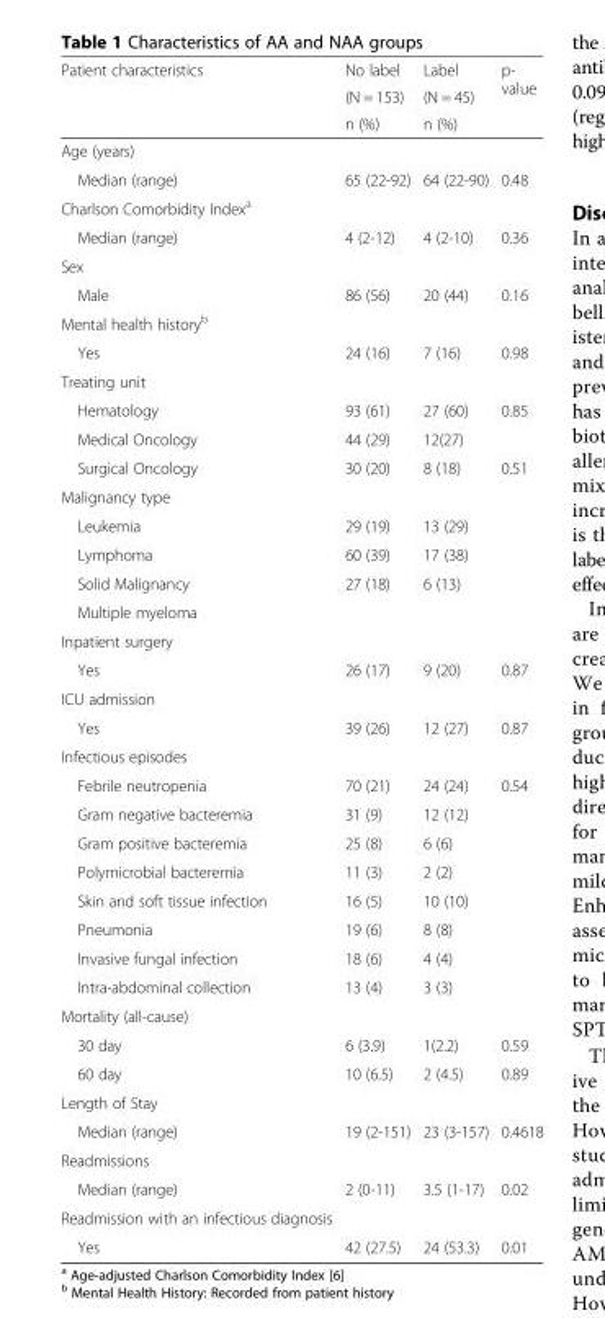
<table><thead><tr><td rowspan="3">Patient characteristics</td><td rowspan="3">No label (N = 153) n (%)</td><td rowspan="3">Label (N = 45) n (%)</td><td rowspan="3">p- value</td></tr><tr></tr><tr></tr></thead><tbody><tr><td colspan="4">Age (years)</td></tr><tr><td>Median (range)</td><td>65 (22-92)</td><td>64 (22-90)</td><td>0.48</td></tr><tr><td colspan="4">Charlson Comorbidity Index<sup>a</sup></td></tr><tr><td>Median (range)</td><td>4 (2-12)</td><td>4 (2-10)</td><td>0.36</td></tr><tr><td colspan="4">Sex</td></tr><tr><td>Male</td><td>86 (56)</td><td>20 (44)</td><td>0.16</td></tr><tr><td colspan="4">Mental health history<sup>b</sup></td></tr><tr><td>Yes</td><td>24 (16)</td><td>7 (16)</td><td>0.98</td></tr><tr><td colspan="4">Treating unit</td></tr><tr><td>Hematology</td><td>93 (61)</td><td>27 (60)</td><td>0.85</td></tr><tr><td>Medical Oncology</td><td>44 (29)</td><td>12(27)</td><td></td></tr><tr><td>Surgical Oncology</td><td>30 (20)</td><td>8 (18)</td><td>0.51</td></tr><tr><td colspan="4">Malignancy type</td></tr><tr><td>Leukemia</td><td>29 (19)</td><td>13 (29)</td><td></td></tr><tr><td>Lymphoma</td><td>60 (39)</td><td>17 (38)</td><td></td></tr><tr><td>Solid Malignancy</td><td>27 (18)</td><td>6 (13)</td><td></td></tr><tr><td colspan="4">Multiple myeloma</td></tr><tr><td colspan="4">Inpatient surgery</td></tr><tr><td>Yes</td><td>26 (17)</td><td>9 (20)</td><td>0.87</td></tr><tr><td colspan="4">ICU admission</td></tr><tr><td>Yes</td><td>39 (26)</td><td>12 (27)</td><td>0.87</td></tr><tr><td colspan="4">Infectious episodes</td></tr><tr><td>Febrile neutropenia</td><td>70 (21)</td><td>24 (24)</td><td>0.54</td></tr><tr><td>Gram negative bacteremia</td><td>31 (9)</td><td>12 (12)</td><td></td></tr><tr><td>Gram positive bacteremia</td><td>25 (8)</td><td>6 (6)</td><td></td></tr><tr><td>Polymicrobial bacteremia</td><td>11 (3)</td><td>2 (2)</td><td></td></tr><tr><td>Skin and soft tissue infection</td><td>16 (5)</td><td>10 (10)</td><td></td></tr><tr><td>Pneumonia</td><td>19 (6)</td><td>8 (8)</td><td></td></tr><tr><td>Invasive fungal infection</td><td>18 (6)</td><td>4 (4)</td><td></td></tr><tr><td>Intra-abdominal collection</td><td>13 (4)</td><td>3 (3)</td><td></td></tr><tr><td colspan="4">Mortality (all-cause)</td></tr><tr><td>30 day</td><td>6 (3.9)</td><td>1(2.2)</td><td>0.59</td></tr><tr><td>60 day</td><td>10 (6.5)</td><td>2 (4.5)</td><td>0.89</td></tr><tr><td colspan="4">Length of Stay</td></tr><tr><td>Median (range)</td><td>19 (2-151)</td><td>23 (3-157)</td><td>0.4618</td></tr><tr><td colspan="4">Readmissions</td></tr><tr><td>Median (range)</td><td>2 (0-11)</td><td>3.5 (1-17)</td><td>0.02</td></tr><tr><td colspan="4">Readmission with an infectious diagnosis</td></tr><tr><td>Yes</td><td>42 (27.5)</td><td>24 (53.3)</td><td>0.01</td></tr></tbody></table>